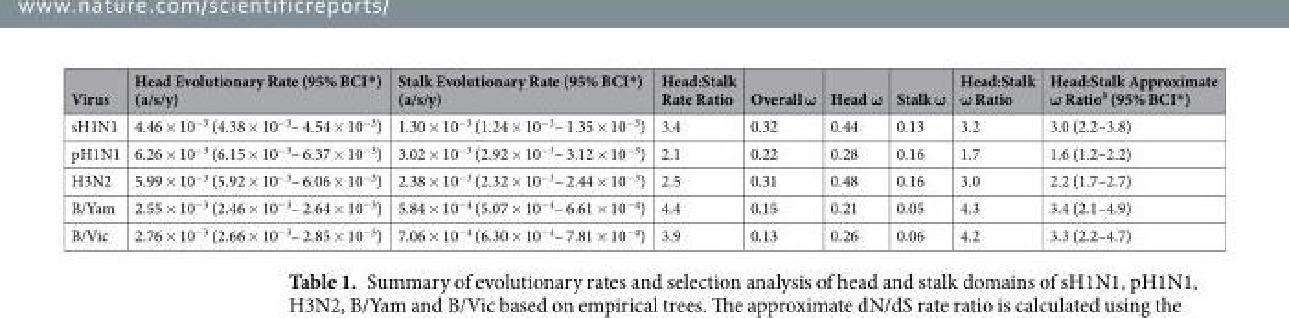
<table><thead><tr><td>Virus</td><td>Head Evolutionary Rate (95% BCI*) (a/s/y)</td><td>Stalk Evolutionary Rate (95% BCI*) (a/s/y)</td><td>Head:Stalk Rate Ratio</td><td>Overall ω</td><td>Head ω</td><td>Stalk ω</td><td>Head:Stalk ω Ratio</td><td>Head:Stalk Approximate ω Ratio<sup>δ</sup> (95% BCI*)</td></tr></thead><tbody><tr><td>sH1N1</td><td>4.46 × 10<sup>−3</sup> (4.38 × 10<sup>−3</sup>– 4.54 × 10<sup>−3</sup>)</td><td>1.30 × 10<sup>−3</sup> (1.24 × 10<sup>−3</sup>– 1.35 × 10<sup>−3</sup>)</td><td>3.4</td><td>0.32</td><td>0.44</td><td>0.13</td><td>3.2</td><td>3.0 (2.2–3.8)</td></tr><tr><td>pH1N1</td><td>6.26 × 10<sup>−3</sup> (6.15 × 10<sup>−3</sup>– 6.37 × 10<sup>−3</sup>)</td><td>3.02 × 10<sup>−3</sup> (2.92 × 10<sup>−3</sup>– 3.12 × 10<sup>−3</sup>)</td><td>2.1</td><td>0.22</td><td>0.28</td><td>0.16</td><td>1.7</td><td>1.6 (1.2–2.2)</td></tr><tr><td>H3N2</td><td>5.99 × 10<sup>−3</sup> (5.92 × 10<sup>−3</sup>– 6.06 × 10<sup>−3</sup>)</td><td>2.38 × 10<sup>−3</sup> (2.32 × 10<sup>−3</sup>– 2.44 × 10<sup>−3</sup>)</td><td>2.5</td><td>0.31</td><td>0.48</td><td>0.16</td><td>3.0</td><td>2.2 (1.7–2.7)</td></tr><tr><td>B/Yam</td><td>2.55 × 10<sup>−3</sup> (2.46 × 10<sup>−3</sup>– 2.64 × 10<sup>−3</sup>)</td><td>5.84 × 10<sup>−4</sup> (5.07 × 10<sup>−4</sup>– 6.61 × 10<sup>−4</sup>)</td><td>4.4</td><td>0.15</td><td>0.21</td><td>0.05</td><td>4.3</td><td>3.4 (2.1–4.9)</td></tr><tr><td>B/Vic</td><td>2.76 × 10<sup>−3</sup> (2.66 × 10<sup>−3</sup>– 2.85 × 10<sup>−3</sup>)</td><td>7.06 × 10<sup>−4</sup> (6.30 × 10<sup>−4</sup>– 7.81 × 10<sup>−4</sup>)</td><td>3.9</td><td>0.13</td><td>0.26</td><td>0.06</td><td>4.2</td><td>3.3 (2.2–4.7)</td></tr></tbody></table>